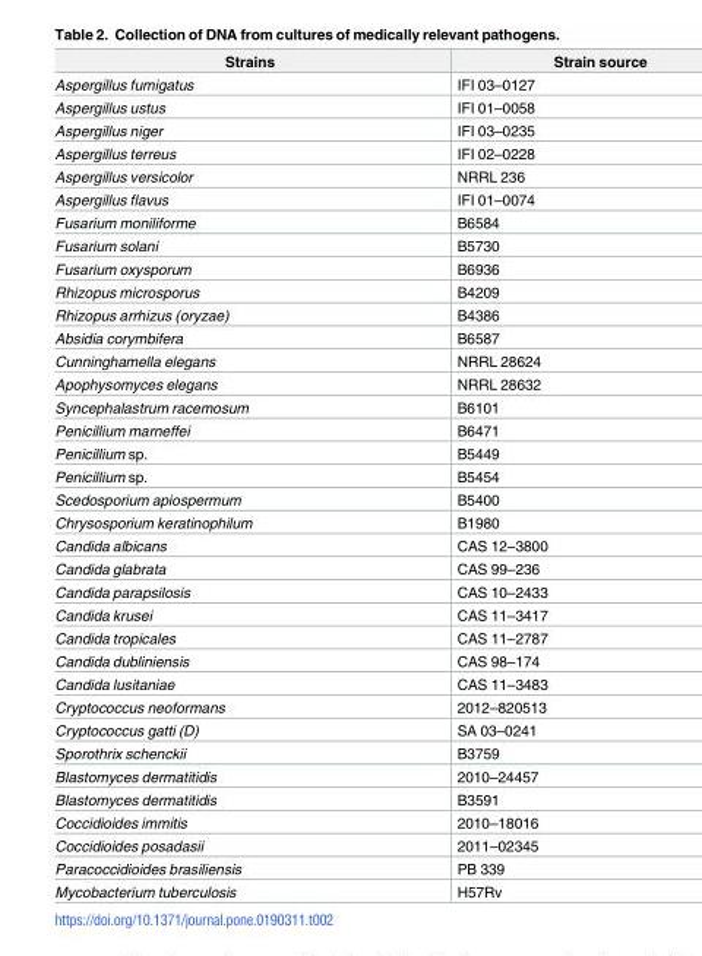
<table><thead><tr><td>Strains</td><td>Strain source</td></tr></thead><tbody><tr><td>Aspergillus fumigatus</td><td>IFI 03–0127</td></tr><tr><td>Aspergillus ustus</td><td>IFI 01–0058</td></tr><tr><td>Aspergillus niger</td><td>IFI 03–0235</td></tr><tr><td>Aspergillus terreus</td><td>IFI 02–0228</td></tr><tr><td>Aspergillus versicolor</td><td>NRRL 236</td></tr><tr><td>Aspergillus flavus</td><td>IFI 01–0074</td></tr><tr><td>Fusarium moniliforme</td><td>B6584</td></tr><tr><td>Fusarium solani</td><td>B5730</td></tr><tr><td>Fusarium oxysporum</td><td>B6936</td></tr><tr><td>Rhizopus microsporus</td><td>B4209</td></tr><tr><td>Rhizopus arrhizus (oryzae)</td><td>B4386</td></tr><tr><td>Absidia corymbifera</td><td>B6587</td></tr><tr><td>Cunninghamella elegans</td><td>NRRL 28624</td></tr><tr><td>Apophysomyces elegans</td><td>NRRL 28632</td></tr><tr><td>Syncephalastrum racemosum</td><td>B6101</td></tr><tr><td>Penicillium marneffei</td><td>B6471</td></tr><tr><td>Penicillium sp.</td><td>B5449</td></tr><tr><td>Penicillium sp.</td><td>B5454</td></tr><tr><td>Scedosporium apiospermum</td><td>B5400</td></tr><tr><td>Chrysosporium keratinophilum</td><td>B1980</td></tr><tr><td>Candida albicans</td><td>CAS 12–3800</td></tr><tr><td>Candida glabrata</td><td>CAS 99–236</td></tr><tr><td>Candida parapsilosis</td><td>CAS 10–2433</td></tr><tr><td>Candida krusei</td><td>CAS 11–3417</td></tr><tr><td>Candida tropicales</td><td>CAS 11–2787</td></tr><tr><td>Candida dubliniensis</td><td>CAS 98–174</td></tr><tr><td>Candida lusitaniae</td><td>CAS 11–3483</td></tr><tr><td>Cryptococcus neoformans</td><td>2012–820513</td></tr><tr><td>Cryptococcus gatti (D)</td><td>SA 03–0241</td></tr><tr><td>Sporothrix schenckii</td><td>B3759</td></tr><tr><td>Blastomyces dermatitidis</td><td>2010–24457</td></tr><tr><td>Blastomyces dermatitidis</td><td>B3591</td></tr><tr><td>Coccidioides immitis</td><td>2010–18016</td></tr><tr><td>Coccidioides posadasii</td><td>2011–02345</td></tr><tr><td>Paracoccidioides brasiliensis</td><td>PB 339</td></tr><tr><td>Mycobacterium tuberculosis</td><td>H57Rv</td></tr></tbody></table>